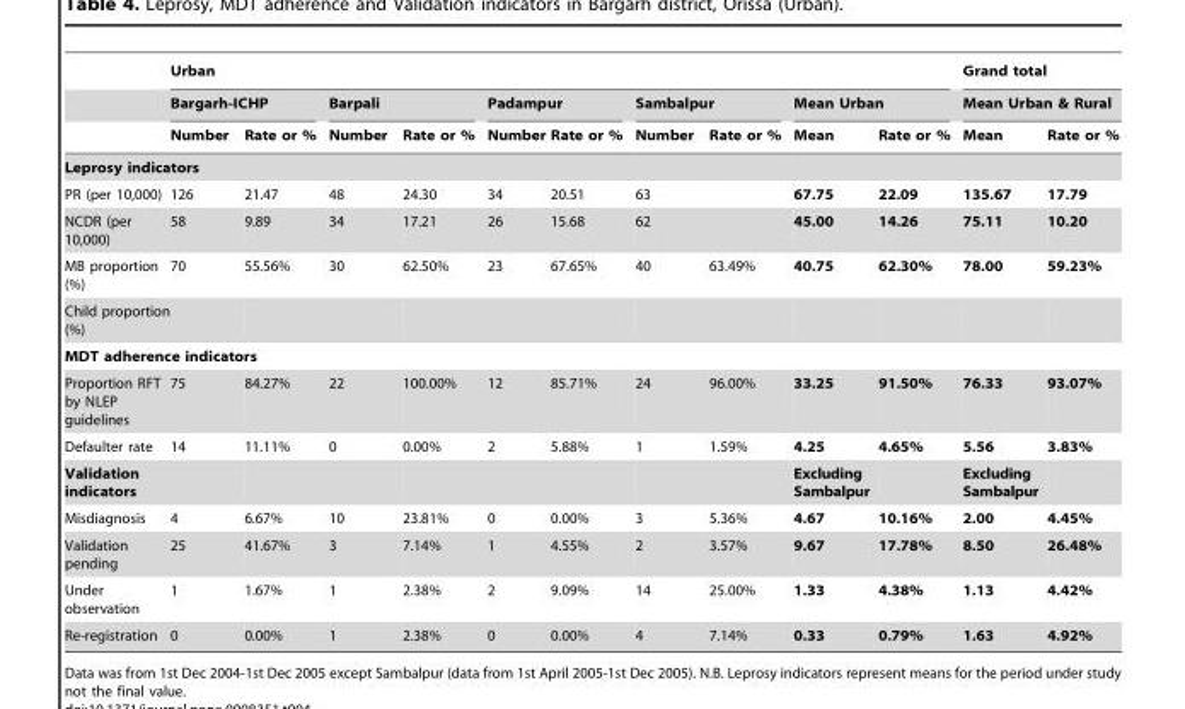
<table><thead><tr><td rowspan="3"></td><td colspan="10">Urban</td><td rowspan="2" colspan="2">Grand total Mean Urban &amp; Rural</td></tr><tr><td colspan="2">Bargarh-ICHP</td><td colspan="2">Barpali</td><td colspan="2">Padampur</td><td colspan="2">Sambalpur</td><td colspan="2">Mean Urban</td></tr><tr><td>Number</td><td>Rate or %</td><td>Number</td><td>Rate or %</td><td>Number</td><td>Rate or %</td><td>Number</td><td>Rate or %</td><td>Mean</td><td>Rate or %</td><td>Mean</td><td>Rate or %</td></tr></thead><tbody><tr><td colspan="13">Leprosy indicators</td></tr><tr><td>PR (per 10,000)</td><td>126</td><td>21.47</td><td>48</td><td>24.30</td><td>34</td><td>20.51</td><td>63</td><td></td><td>67.75</td><td>22.09</td><td>135.67</td><td>17.79</td></tr><tr><td>NCDR (per 10,000)</td><td>58</td><td>9.89</td><td>34</td><td>17.21</td><td>26</td><td>15.68</td><td>62</td><td></td><td>45.00</td><td>14.26</td><td>75.11</td><td>10.20</td></tr><tr><td>MB proportion (%)</td><td>70</td><td>55.56%</td><td>30</td><td>62.50%</td><td>23</td><td>67.65%</td><td>40</td><td>63.49%</td><td>40.75</td><td>62.30%</td><td>78.00</td><td>59.23%</td></tr><tr><td colspan="13">Child proportion (%)</td></tr><tr><td colspan="13">MDT adherence indicators</td></tr><tr><td>Proportion RFT by NLEP guidelines</td><td>75</td><td>84.27%</td><td>22</td><td>100.00%</td><td>12</td><td>85.71%</td><td>24</td><td>96.00%</td><td>33.25</td><td>91.50%</td><td>76.33</td><td>93.07%</td></tr><tr><td>Defaulter rate</td><td>14</td><td>11.11%</td><td>0</td><td>0.00%</td><td>2</td><td>5.88%</td><td>1</td><td>1.59%</td><td>4.25</td><td>4.65%</td><td>5.56</td><td>3.83%</td></tr><tr><td>Validation indicators</td><td></td><td></td><td></td><td></td><td></td><td></td><td></td><td></td><td>Excluding Sambalpur</td><td></td><td>Excluding Sambalpur</td><td></td></tr><tr><td>Misdiagnosis</td><td>4</td><td>6.67%</td><td>10</td><td>23.81%</td><td>0</td><td>0.00%</td><td>3</td><td>5.36%</td><td>4.67</td><td>10.16%</td><td>2.00</td><td>4.45%</td></tr><tr><td>Validation pending</td><td>25</td><td>41.67%</td><td>3</td><td>7.14%</td><td>1</td><td>4.55%</td><td>2</td><td>3.57%</td><td>9.67</td><td>17.78%</td><td>8.50</td><td>26.48%</td></tr><tr><td>Under observation</td><td>1</td><td>1.67%</td><td>1</td><td>2.38%</td><td>2</td><td>9.09%</td><td>14</td><td>25.00%</td><td>1.33</td><td>4.38%</td><td>1.13</td><td>4.42%</td></tr><tr><td>Re-registration</td><td>0</td><td>0.00%</td><td>1</td><td>2.38%</td><td>0</td><td>0.00%</td><td>4</td><td>7.14%</td><td>0.33</td><td>0.79%</td><td>1.63</td><td>4.92%</td></tr></tbody></table>